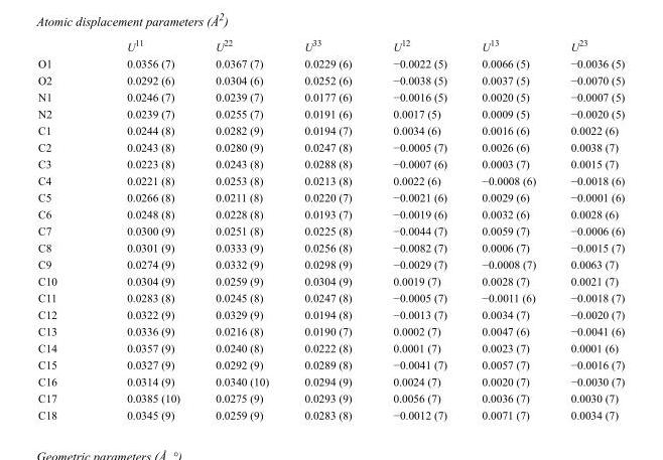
<table><thead><tr><td></td><td>U<sup>11</sup></td><td>U<sup>22</sup></td><td>U<sup>33</sup></td><td>U<sup>12</sup></td><td>U<sup>13</sup></td><td>U<sup>23</sup></td></tr></thead><tbody><tr><td>O1</td><td>0.0356 (7)</td><td>0.0367 (7)</td><td>0.0229 (6)</td><td>−0.0022 (5)</td><td>0.0066 (5)</td><td>−0.0036 (5)</td></tr><tr><td>O2</td><td>0.0292 (6)</td><td>0.0304 (6)</td><td>0.0252 (6)</td><td>−0.0038 (5)</td><td>0.0037 (5)</td><td>−0.0070 (5)</td></tr><tr><td>N1</td><td>0.0246 (7)</td><td>0.0239 (7)</td><td>0.0177 (6)</td><td>−0.0016 (5)</td><td>0.0020 (5)</td><td>−0.0007 (5)</td></tr><tr><td>N2</td><td>0.0239 (7)</td><td>0.0255 (7)</td><td>0.0191 (6)</td><td>0.0017 (5)</td><td>0.0009 (5)</td><td>−0.0020 (5)</td></tr><tr><td>C1</td><td>0.0244 (8)</td><td>0.0282 (9)</td><td>0.0194 (7)</td><td>0.0034 (6)</td><td>0.0016 (6)</td><td>0.0022 (6)</td></tr><tr><td>C2</td><td>0.0243 (8)</td><td>0.0280 (9)</td><td>0.0247 (8)</td><td>−0.0005 (7)</td><td>0.0026 (6)</td><td>0.0038 (7)</td></tr><tr><td>C3</td><td>0.0223 (8)</td><td>0.0243 (8)</td><td>0.0288 (8)</td><td>−0.0007 (6)</td><td>0.0003 (7)</td><td>0.0015 (7)</td></tr><tr><td>C4</td><td>0.0221 (8)</td><td>0.0253 (8)</td><td>0.0213 (8)</td><td>0.0022 (6)</td><td>−0.0008 (6)</td><td>−0.0018 (6)</td></tr><tr><td>C5</td><td>0.0266 (8)</td><td>0.0211 (8)</td><td>0.0220 (7)</td><td>−0.0021 (6)</td><td>0.0029 (6)</td><td>−0.0001 (6)</td></tr><tr><td>C6</td><td>0.0248 (8)</td><td>0.0228 (8)</td><td>0.0193 (7)</td><td>−0.0019 (6)</td><td>0.0032 (6)</td><td>0.0028 (6)</td></tr><tr><td>C7</td><td>0.0300 (9)</td><td>0.0251 (8)</td><td>0.0225 (8)</td><td>−0.0044 (7)</td><td>0.0059 (7)</td><td>−0.0006 (6)</td></tr><tr><td>C8</td><td>0.0301 (9)</td><td>0.0333 (9)</td><td>0.0256 (8)</td><td>−0.0082 (7)</td><td>0.0006 (7)</td><td>−0.0015 (7)</td></tr><tr><td>C9</td><td>0.0274 (9)</td><td>0.0332 (9)</td><td>0.0298 (9)</td><td>−0.0029 (7)</td><td>−0.0008 (7)</td><td>0.0063 (7)</td></tr><tr><td>C10</td><td>0.0304 (9)</td><td>0.0259 (9)</td><td>0.0304 (9)</td><td>0.0019 (7)</td><td>0.0028 (7)</td><td>0.0021 (7)</td></tr><tr><td>C11</td><td>0.0283 (8)</td><td>0.0245 (8)</td><td>0.0247 (8)</td><td>−0.0005 (7)</td><td>−0.0011 (6)</td><td>−0.0018 (7)</td></tr><tr><td>C12</td><td>0.0322 (9)</td><td>0.0329 (9)</td><td>0.0194 (8)</td><td>−0.0013 (7)</td><td>0.0034 (7)</td><td>−0.0020 (7)</td></tr><tr><td>C13</td><td>0.0336 (9)</td><td>0.0216 (8)</td><td>0.0190 (7)</td><td>0.0002 (7)</td><td>0.0047 (6)</td><td>−0.0041 (6)</td></tr><tr><td>C14</td><td>0.0357 (9)</td><td>0.0240 (8)</td><td>0.0222 (8)</td><td>0.0001 (7)</td><td>0.0023 (7)</td><td>0.0001 (6)</td></tr><tr><td>C15</td><td>0.0327 (9)</td><td>0.0292 (9)</td><td>0.0289 (8)</td><td>−0.0041 (7)</td><td>0.0057 (7)</td><td>−0.0016 (7)</td></tr><tr><td>C16</td><td>0.0314 (9)</td><td>0.0340 (10)</td><td>0.0294 (9)</td><td>0.0024 (7)</td><td>0.0020 (7)</td><td>−0.0030 (7)</td></tr><tr><td>C17</td><td>0.0385 (10)</td><td>0.0275 (9)</td><td>0.0293 (9)</td><td>0.0056 (7)</td><td>0.0036 (7)</td><td>0.0030 (7)</td></tr><tr><td>C18</td><td>0.0345 (9)</td><td>0.0259 (9)</td><td>0.0283 (8)</td><td>−0.0012 (7)</td><td>0.0071 (7)</td><td>0.0034 (7)</td></tr></tbody></table>